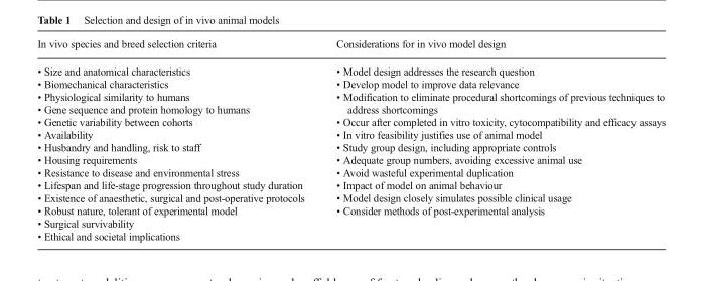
<table><thead><tr><td>In vivo species and breed selection criteria</td><td>Considerations for in vivo model design</td></tr></thead><tbody><tr><td>• Size and anatomical characteristics • Biomechanical characteristics • Physiological similarity to humans • Gene sequence and protein homology to humans • Genetic variability between cohorts • Availability • Husbandry and handling, risk to staff • Housing requirements • Resistance to disease and environmental stress • Lifespan and life-stage progression throughout study duration • Existence of anaesthetic, surgical and post-operative protocols • Robust nature, tolerant of experimental model • Surgical survivability • Ethical and societal implications</td><td>• Model design addresses the research question • Develop model to improve data relevance • Modification to eliminate procedural shortcomings of previous techniques to address shortcomings • Occur after completed in vitro toxicity, cytocompatibility and efficacy assays • In vitro feasibility justifies use of animal model • Study group design, including appropriate controls • Adequate group numbers, avoiding excessive animal use • Avoid wasteful experimental duplication • Impact of model on animal behaviour • Model design closely simulates possible clinical usage • Consider methods of post-experimental analysis</td></tr></tbody></table>